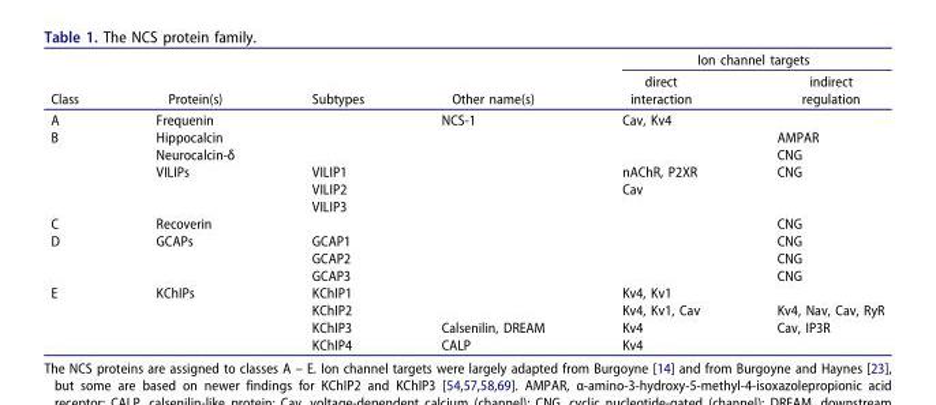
<table><thead><tr><td rowspan="2">Class</td><td rowspan="2">Protein(s)</td><td rowspan="2">Subtypes</td><td rowspan="2">Other name(s)</td><td colspan="2">Ion channel targets</td></tr><tr><td>direct interaction</td><td>indirect regulation</td></tr></thead><tbody><tr><td>A</td><td>Frequenin</td><td></td><td>NCS-1</td><td>Cav, Kv4</td><td></td></tr><tr><td rowspan="5">B</td><td>Hippocalcin</td><td></td><td></td><td></td><td>AMPAR</td></tr><tr><td>Neurocalcin-δ</td><td></td><td></td><td></td><td>CNG</td></tr><tr><td>VILIPs</td><td>VILIP1</td><td></td><td>nAChR, P2XR</td><td>CNG</td></tr><tr><td></td><td>VILIP2</td><td></td><td>Cav</td><td></td></tr><tr><td></td><td>VILIP3</td><td></td><td></td><td></td></tr><tr><td>C</td><td>Recoverin</td><td></td><td></td><td></td><td>CNG</td></tr><tr><td rowspan="3">D</td><td>GCAPs</td><td>GCAP1</td><td></td><td></td><td>CNG</td></tr><tr><td></td><td>GCAP2</td><td></td><td></td><td>CNG</td></tr><tr><td></td><td>GCAP3</td><td></td><td></td><td>CNG</td></tr><tr><td rowspan="4">E</td><td>KChIPs</td><td>KChIP1</td><td></td><td>Kv4, Kv1</td><td></td></tr><tr><td></td><td>KChIP2</td><td></td><td>Kv4, Kv1, Cav</td><td>Kv4, Nav, Cav, RyR</td></tr><tr><td></td><td>KChIP3</td><td>Calsenilin, DREAM</td><td>Kv4</td><td>Cav, IP3R</td></tr><tr><td></td><td>KChIP4</td><td>CALP</td><td>Kv4</td><td></td></tr></tbody></table>